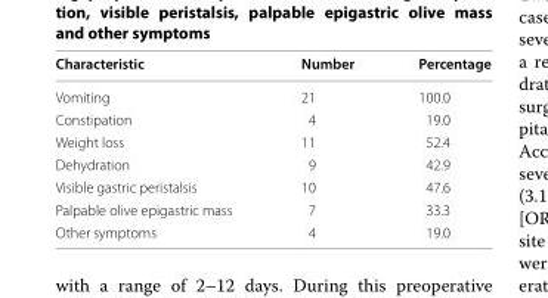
<table><thead><tr><td>Characteristic</td><td>Number</td><td>Percentage</td></tr></thead><tbody><tr><td>Vomiting</td><td>21</td><td>100.0</td></tr><tr><td>Constipation</td><td>4</td><td>19.0</td></tr><tr><td>Weight loss</td><td>11</td><td>52.4</td></tr><tr><td>Dehydration</td><td>9</td><td>42.9</td></tr><tr><td>Visible gastric peristalsis</td><td>10</td><td>47.6</td></tr><tr><td>Palpable olive epigastric mass</td><td>7</td><td>33.3</td></tr><tr><td>Other symptoms</td><td>4</td><td>19.0</td></tr></tbody></table>